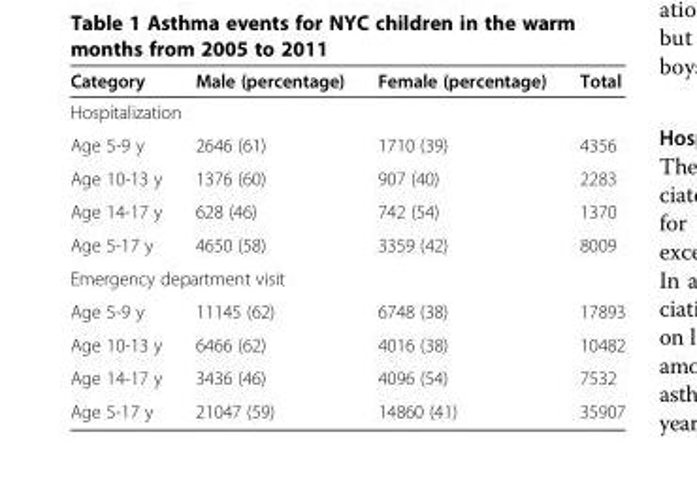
<table><thead><tr><td>Category</td><td>Male (percentage)</td><td>Female (percentage)</td><td>Total</td></tr></thead><tbody><tr><td colspan="4">Hospitalization</td></tr><tr><td>Age 5-9 y</td><td>2646 (61)</td><td>1710 (39)</td><td>4356</td></tr><tr><td>Age 10-13 y</td><td>1376 (60)</td><td>907 (40)</td><td>2283</td></tr><tr><td>Age 14-17 y</td><td>628 (46)</td><td>742 (54)</td><td>1370</td></tr><tr><td>Age 5-17 y</td><td>4650 (58)</td><td>3359 (42)</td><td>8009</td></tr><tr><td colspan="4">Emergency department visit</td></tr><tr><td>Age 5-9 y</td><td>11145 (62)</td><td>6748 (38)</td><td>17893</td></tr><tr><td>Age 10-13 y</td><td>6466 (62)</td><td>4016 (38)</td><td>10482</td></tr><tr><td>Age 14-17 y</td><td>3436 (46)</td><td>4096 (54)</td><td>7532</td></tr><tr><td>Age 5-17 y</td><td>21047 (59)</td><td>14860 (41)</td><td>35907</td></tr></tbody></table>